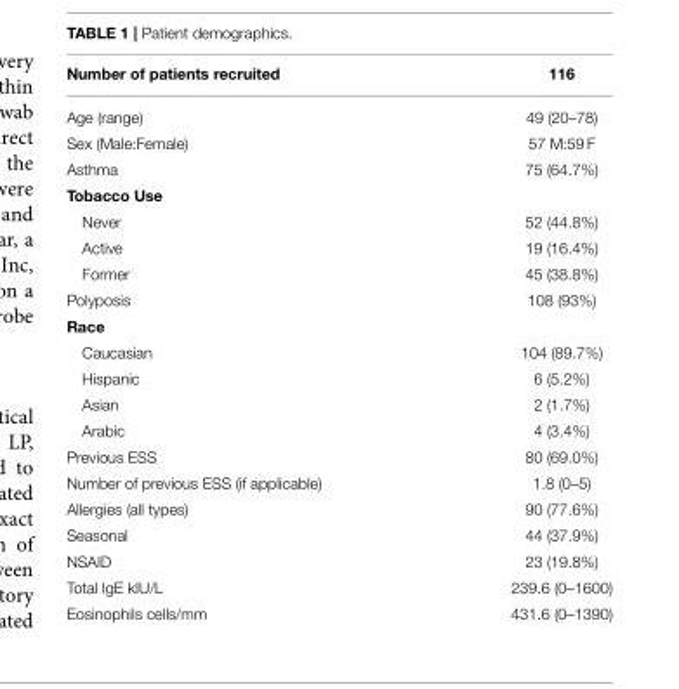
<table><thead><tr><td>Number of patients recruited</td><td>116</td></tr></thead><tbody><tr><td>Age (range)</td><td>49 (20–78)</td></tr><tr><td>Sex (Male:Female)</td><td>57 M:59 F</td></tr><tr><td>Asthma</td><td>75 (64.7%)</td></tr><tr><td colspan="2">Tobacco Use</td></tr><tr><td>Never</td><td>52 (44.8%)</td></tr><tr><td>Active</td><td>19 (16.4%)</td></tr><tr><td>Former</td><td>45 (38.8%)</td></tr><tr><td>Polyposis</td><td>108 (93%)</td></tr><tr><td colspan="2">Race</td></tr><tr><td>Caucasian</td><td>104 (89.7%)</td></tr><tr><td>Hispanic</td><td>6 (5.2%)</td></tr><tr><td>Asian</td><td>2 (1.7%)</td></tr><tr><td>Arabic</td><td>4 (3.4%)</td></tr><tr><td>Previous ESS</td><td>80 (69.0%)</td></tr><tr><td>Number of previous ESS (if applicable)</td><td>1.8 (0–5)</td></tr><tr><td>Allergies (all types)</td><td>90 (77.6%)</td></tr><tr><td>Seasonal</td><td>44 (37.9%)</td></tr><tr><td>NSAID</td><td>23 (19.8%)</td></tr><tr><td>Total IgE kIU/L</td><td>239.6 (0–1600)</td></tr><tr><td>Eosinophils cells/mm</td><td>431.6 (0–1390)</td></tr></tbody></table>